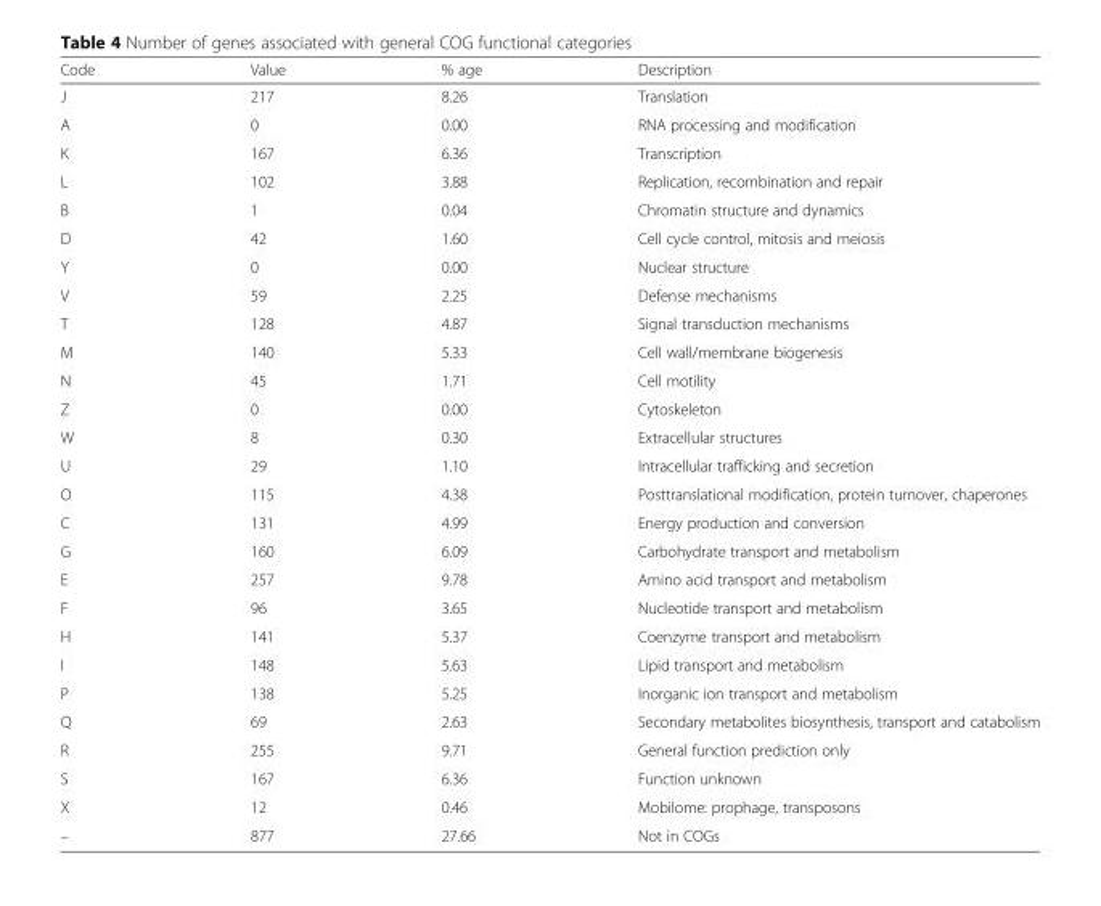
<table><thead><tr><td>Code</td><td>Value</td><td>% age</td><td>Description</td></tr></thead><tbody><tr><td>J</td><td>217</td><td>8.26</td><td>Translation</td></tr><tr><td>A</td><td>0</td><td>0.00</td><td>RNA processing and modification</td></tr><tr><td>K</td><td>167</td><td>6.36</td><td>Transcription</td></tr><tr><td>L</td><td>102</td><td>3.88</td><td>Replication, recombination and repair</td></tr><tr><td>B</td><td>1</td><td>0.04</td><td>Chromatin structure and dynamics</td></tr><tr><td>D</td><td>42</td><td>1.60</td><td>Cell cycle control, mitosis and meiosis</td></tr><tr><td>Y</td><td>0</td><td>0.00</td><td>Nuclear structure</td></tr><tr><td>V</td><td>59</td><td>2.25</td><td>Defense mechanisms</td></tr><tr><td>T</td><td>128</td><td>4.87</td><td>Signal transduction mechanisms</td></tr><tr><td>M</td><td>140</td><td>5.33</td><td>Cell wall/membrane biogenesis</td></tr><tr><td>N</td><td>45</td><td>1.71</td><td>Cell motility</td></tr><tr><td>Z</td><td>0</td><td>0.00</td><td>Cytoskeleton</td></tr><tr><td>W</td><td>8</td><td>0.30</td><td>Extracellular structures</td></tr><tr><td>U</td><td>29</td><td>1.10</td><td>Intracellular trafficking and secretion</td></tr><tr><td>O</td><td>115</td><td>4.38</td><td>Posttranslational modification, protein turnover, chaperones</td></tr><tr><td>C</td><td>131</td><td>4.99</td><td>Energy production and conversion</td></tr><tr><td>G</td><td>160</td><td>6.09</td><td>Carbohydrate transport and metabolism</td></tr><tr><td>E</td><td>257</td><td>9.78</td><td>Amino acid transport and metabolism</td></tr><tr><td>F</td><td>96</td><td>3.65</td><td>Nucleotide transport and metabolism</td></tr><tr><td>H</td><td>141</td><td>5.37</td><td>Coenzyme transport and metabolism</td></tr><tr><td>I</td><td>148</td><td>5.63</td><td>Lipid transport and metabolism</td></tr><tr><td>P</td><td>138</td><td>5.25</td><td>Inorganic ion transport and metabolism</td></tr><tr><td>Q</td><td>69</td><td>2.63</td><td>Secondary metabolites biosynthesis, transport and catabolism</td></tr><tr><td>R</td><td>255</td><td>9.71</td><td>General function prediction only</td></tr><tr><td>S</td><td>167</td><td>6.36</td><td>Function unknown</td></tr><tr><td>X</td><td>12</td><td>0.46</td><td>Mobilome: prophage, transposons</td></tr><tr><td>–</td><td>877</td><td>27.66</td><td>Not in COGs</td></tr></tbody></table>